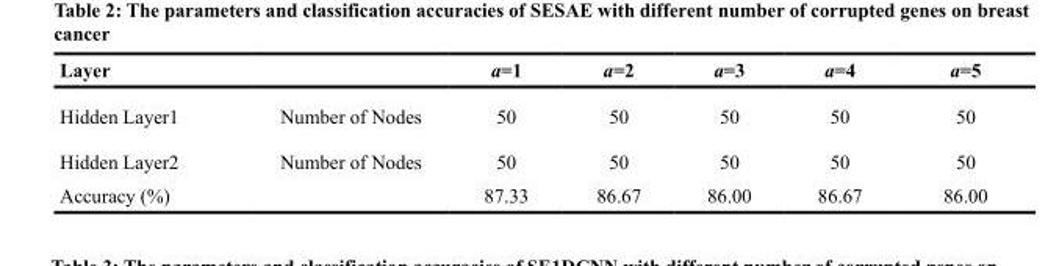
<table><thead><tr><td>Layer</td><td></td><td>a=1</td><td>a=2</td><td>a=3</td><td>a=4</td><td>a=5</td></tr></thead><tbody><tr><td>Hidden Layer1</td><td>Number of Nodes</td><td>50</td><td>50</td><td>50</td><td>50</td><td>50</td></tr><tr><td>Hidden Layer2</td><td>Number of Nodes</td><td>50</td><td>50</td><td>50</td><td>50</td><td>50</td></tr><tr><td colspan="2">Accuracy (%)</td><td>87.33</td><td>86.67</td><td>86.00</td><td>86.67</td><td>86.00</td></tr></tbody></table>